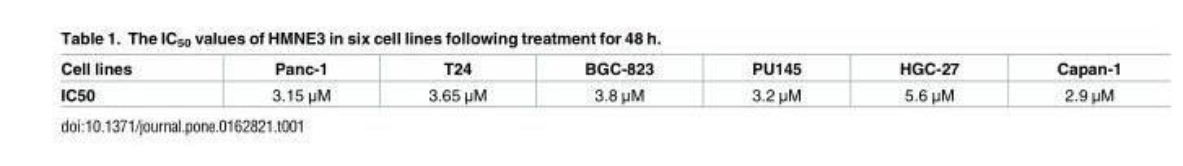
<table><thead><tr><td>Cell lines</td><td>Panc-1</td><td>T24</td><td>BGC-823</td><td>PU145</td><td>HGC-27</td><td>Capan-1</td></tr></thead><tbody><tr><td>IC50</td><td>3.15 μM</td><td>3.65 μM</td><td>3.8 μM</td><td>3.2 μM</td><td>5.6 μM</td><td>2.9 μM</td></tr></tbody></table>